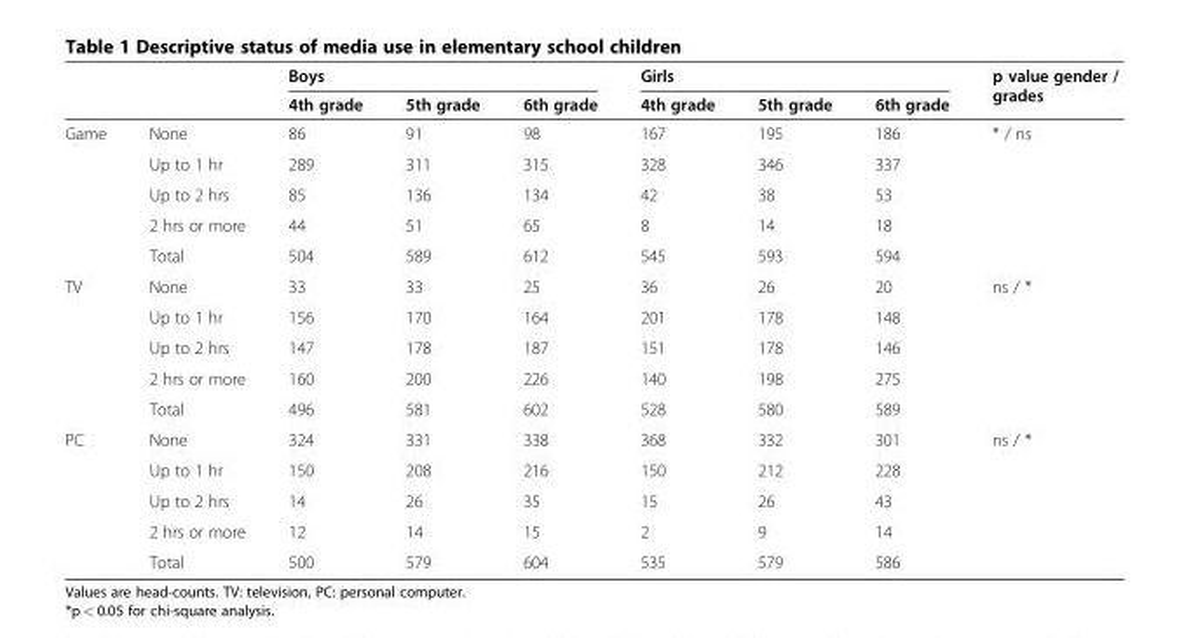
<table><thead><tr><td rowspan="2"></td><td rowspan="2"></td><td colspan="3">Boys</td><td colspan="3">Girls</td><td rowspan="2">p value gender / grades</td></tr><tr><td>4th grade</td><td>5th grade</td><td>6th grade</td><td>4th grade</td><td>5th grade</td><td>6th grade</td></tr></thead><tbody><tr><td rowspan="5">Game</td><td>None</td><td>86</td><td>91</td><td>98</td><td>167</td><td>195</td><td>186</td><td rowspan="5">* / ns</td></tr><tr><td>Up to 1 hr</td><td>289</td><td>311</td><td>315</td><td>328</td><td>346</td><td>337</td></tr><tr><td>Up to 2 hrs</td><td>85</td><td>136</td><td>134</td><td>42</td><td>38</td><td>53</td></tr><tr><td>2 hrs or more</td><td>44</td><td>51</td><td>65</td><td>8</td><td>14</td><td>18</td></tr><tr><td>Total</td><td>504</td><td>589</td><td>612</td><td>545</td><td>593</td><td>594</td></tr><tr><td rowspan="5">TV</td><td>None</td><td>33</td><td>33</td><td>25</td><td>36</td><td>26</td><td>20</td><td rowspan="5">ns / *</td></tr><tr><td>Up to 1 hr</td><td>156</td><td>170</td><td>164</td><td>201</td><td>178</td><td>148</td></tr><tr><td>Up to 2 hrs</td><td>147</td><td>178</td><td>187</td><td>151</td><td>178</td><td>146</td></tr><tr><td>2 hrs or more</td><td>160</td><td>200</td><td>226</td><td>140</td><td>198</td><td>275</td></tr><tr><td>Total</td><td>496</td><td>581</td><td>602</td><td>528</td><td>580</td><td>589</td></tr><tr><td rowspan="5">PC</td><td>None</td><td>324</td><td>331</td><td>338</td><td>368</td><td>332</td><td>301</td><td rowspan="5">ns / *</td></tr><tr><td>Up to 1 hr</td><td>150</td><td>208</td><td>216</td><td>150</td><td>212</td><td>228</td></tr><tr><td>Up to 2 hrs</td><td>14</td><td>26</td><td>35</td><td>15</td><td>26</td><td>43</td></tr><tr><td>2 hrs or more</td><td>12</td><td>14</td><td>15</td><td>2</td><td>9</td><td>14</td></tr><tr><td>Total</td><td>500</td><td>579</td><td>604</td><td>535</td><td>579</td><td>586</td></tr></tbody></table>